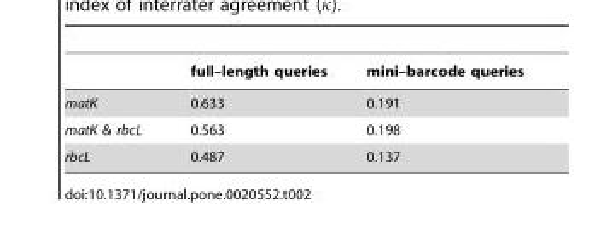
<table><thead><tr><td></td><td>full–length queries</td><td>mini–barcode queries</td></tr></thead><tbody><tr><td>matK</td><td>0.633</td><td>0.191</td></tr><tr><td>matK &amp; rbcL</td><td>0.563</td><td>0.198</td></tr><tr><td>rbcL</td><td>0.487</td><td>0.137</td></tr></tbody></table>